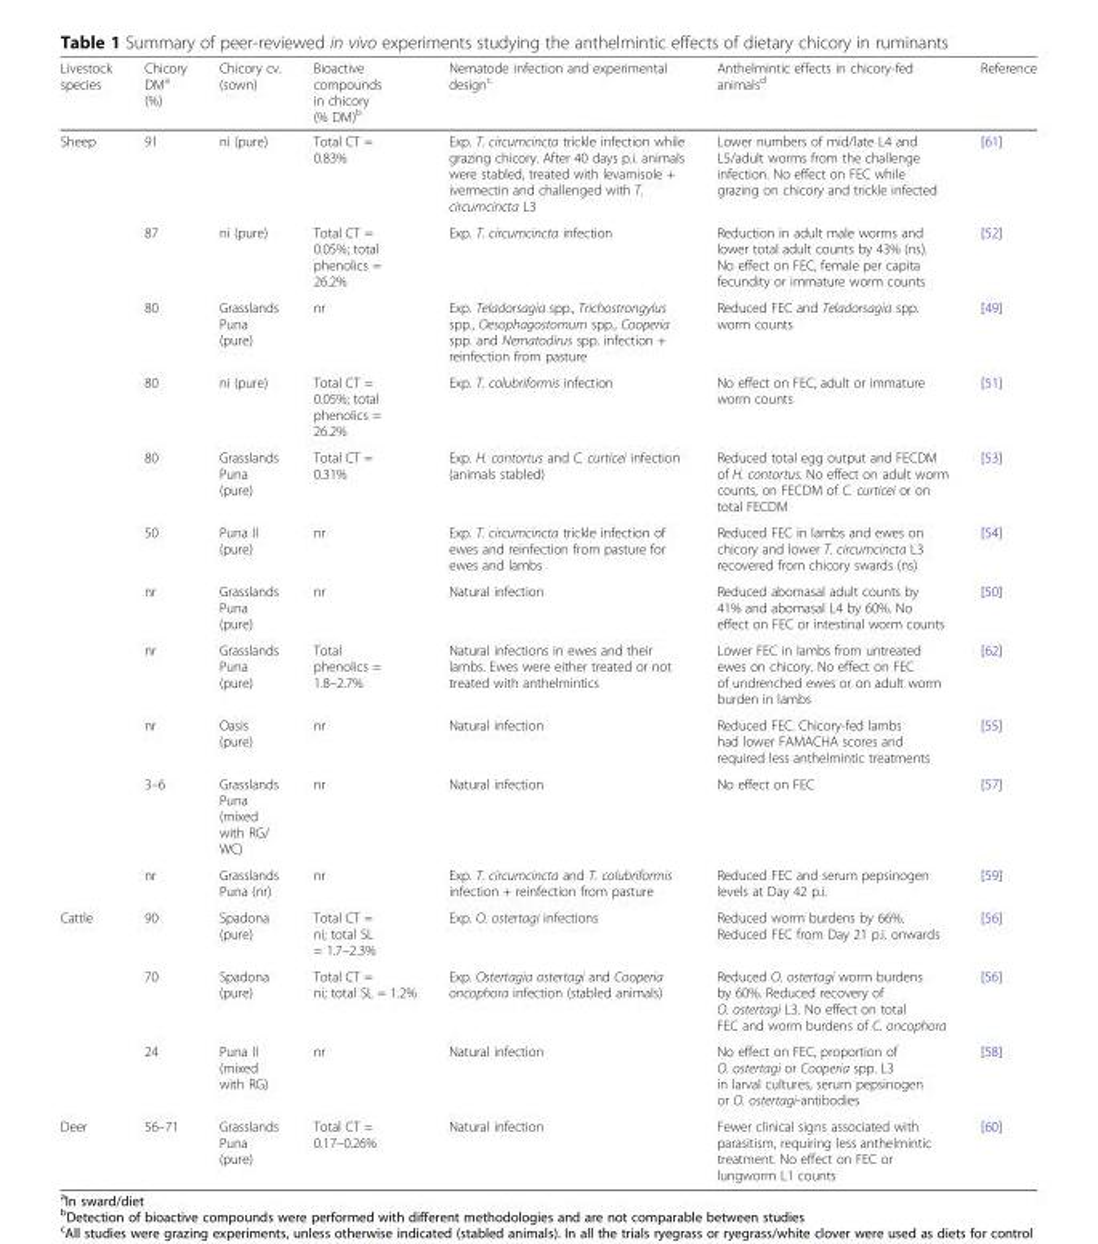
<table><thead><tr><td>Livestock species</td><td>Chicory DM<sup>a</sup> (%)</td><td>Chicory cv. (sown)</td><td>Bioactive compounds in chicory (% DM)<sup>b</sup></td><td>Nematode infection and experimental design<sup>c</sup></td><td>Anthelmintic effects in chicory-fed animals<sup>d</sup></td><td>Reference</td></tr></thead><tbody><tr><td rowspan="11">Sheep</td><td>91</td><td>ni (pure)</td><td>Total CT = 0.83%</td><td>Exp. T. circumcincta trickle infection while grazing chicory. After 40 days p.i. animals were stabled, treated with levamisole + ivermectin and challenged with T. circumcincta L3</td><td>Lower numbers of mid/late L4 and L5/adult worms from the challenge infection. No effect on FEC while grazing on chicory and trickle infected</td><td>[61]</td></tr><tr><td>87</td><td>ni (pure)</td><td>Total CT = 0.05%; total phenolics = 26.2%</td><td>Exp. T. circumcincta infection</td><td>Reduction in adult male worms and lower total adult counts by 43% (ns). No effect on FEC, female per capita fecundity or immature worm counts</td><td>[52]</td></tr><tr><td>80</td><td>Grasslands Puna (pure)</td><td>nr</td><td>Exp. Teladorsagia spp., Trichostrongylus spp., Oesophagostomum spp., Cooperia spp. and Nematodirus spp. infection + reinfection from pasture</td><td>Reduced FEC and Teladorsagia spp. worm counts</td><td>[49]</td></tr><tr><td>80</td><td>ni (pure)</td><td>Total CT = 0.05%; total phenolics = 26.2%</td><td>Exp. T. colubriformis infection</td><td>No effect on FEC, adult or immature worm counts</td><td>[51]</td></tr><tr><td>80</td><td>Grasslands Puna (pure)</td><td>Total CT = 0.31%</td><td>Exp. H. contortus and C. curticei infection (animals stabled)</td><td>Reduced total egg output and FECDM of H. contortus. No effect on adult worm counts, on FECDM of C. curticei or on total FECDM</td><td>[53]</td></tr><tr><td>50</td><td>Puna II (pure)</td><td>nr</td><td>Exp. T. circumcincta trickle infection of ewes and reinfection from pasture for ewes and lambs</td><td>Reduced FEC in lambs and ewes on chicory and lower T. circumcincta L3 recovered from chicory swards (ns)</td><td>[54]</td></tr><tr><td>nr</td><td>Grasslands Puna (pure)</td><td>nr</td><td>Natural infection</td><td>Reduced abomasal adult counts by 41% and abomasal L4 by 60%. No effect on FEC or intestinal worm counts</td><td>[50]</td></tr><tr><td>nr</td><td>Grasslands Puna (pure)</td><td>Total phenolics = 1.8–2.7%</td><td>Natural infections in ewes and their lambs. Ewes were either treated or not treated with anthelmintics</td><td>Lower FEC in lambs from untreated ewes on chicory. No effect on FEC of undrenched ewes or on adult worm burden in lambs</td><td>[62]</td></tr><tr><td>nr</td><td>Oasis (pure)</td><td>nr</td><td>Natural infection</td><td>Reduced FEC. Chicory-fed lambs had lower FAMACHA scores and required less anthelmintic treatments</td><td>[55]</td></tr><tr><td>3–6</td><td>Grasslands Puna (mixed with RG/ WC)</td><td>nr</td><td>Natural infection</td><td>No effect on FEC</td><td>[57]</td></tr><tr><td>nr</td><td>Grasslands Puna (nr)</td><td>nr</td><td>Exp. T. circumcincta and T. colubriformis infection + reinfection from pasture</td><td>Reduced FEC and serum pepsinogen levels at Day 42 p.i.</td><td>[59]</td></tr><tr><td rowspan="3">Cattle</td><td>90</td><td>Spadona (pure)</td><td>Total CT = ni; total SL = 1.7–2.3%</td><td>Exp. O. ostertagi infections</td><td>Reduced worm burdens by 66%. Reduced FEC from Day 21 p.i. onwards</td><td>[56]</td></tr><tr><td>70</td><td>Spadona (pure)</td><td>Total CT = ni; total SL = 1.2%</td><td>Exp. Ostertagia ostertagi and Cooperia oncophora infection (stabled animals)</td><td>Reduced O. ostertagi worm burdens by 60%. Reduced recovery of O. ostertagi L3. No effect on total FEC and worm burdens of C. oncophora</td><td>[56]</td></tr><tr><td>24</td><td>Puna II (mixed with RG)</td><td>nr</td><td>Natural infection</td><td>No effect on FEC, proportion of O. ostertagi or Cooperia spp. L3 in larval cultures, serum pepsinogen or O. ostertagi-antibodies</td><td>[58]</td></tr><tr><td>Deer</td><td>56–71</td><td>Grasslands Puna (pure)</td><td>Total CT = 0.17–0.26%</td><td>Natural infection</td><td>Fewer clinical signs associated with parasitism, requiring less anthelmintic treatment. No effect on FEC or lungworm L1 counts</td><td>[60]</td></tr></tbody></table>